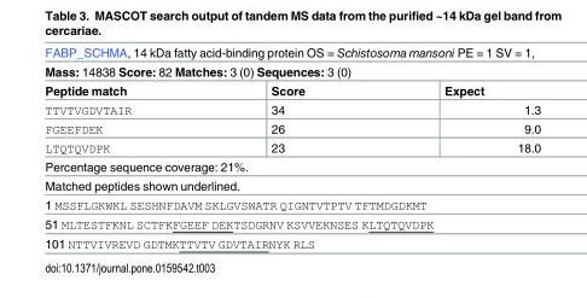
<table><tbody><tr><td colspan="3">FABP_SCHMA, 14 kDa fatty acid-binding protein OS = Schistosoma mansoni PE = 1 SV = 1,</td></tr><tr><td colspan="3">Mass: 14838 Score: 82 Matches: 3 (0) Sequences: 3 (0)</td></tr><tr><td>Peptide match</td><td>Score</td><td>Expect</td></tr><tr><td>TTVTVGDVTAIR</td><td>34</td><td>1.3</td></tr><tr><td>FGEEFDEK</td><td>26</td><td>9.0</td></tr><tr><td>LTQTQVDPK</td><td>23</td><td>18.0</td></tr><tr><td colspan="3">Percentage sequence coverage: 21%.</td></tr><tr><td colspan="3">Matched peptides shown underlined.</td></tr><tr><td colspan="3">1 MSSFLGKWKL SESHNFDAVM SKLGVSWATR QIGNTVTPTV TFTMDGDKMT</td></tr><tr><td colspan="3">51 MLTESTFKNL SCTFKFGEEF DEKTSDGRNV KSVVEKNSES KLTQTQVDPK</td></tr><tr><td colspan="3">101 NTTVIVREVD GDTMKTTVTV GDVTAIRNYK RLS</td></tr></tbody></table>